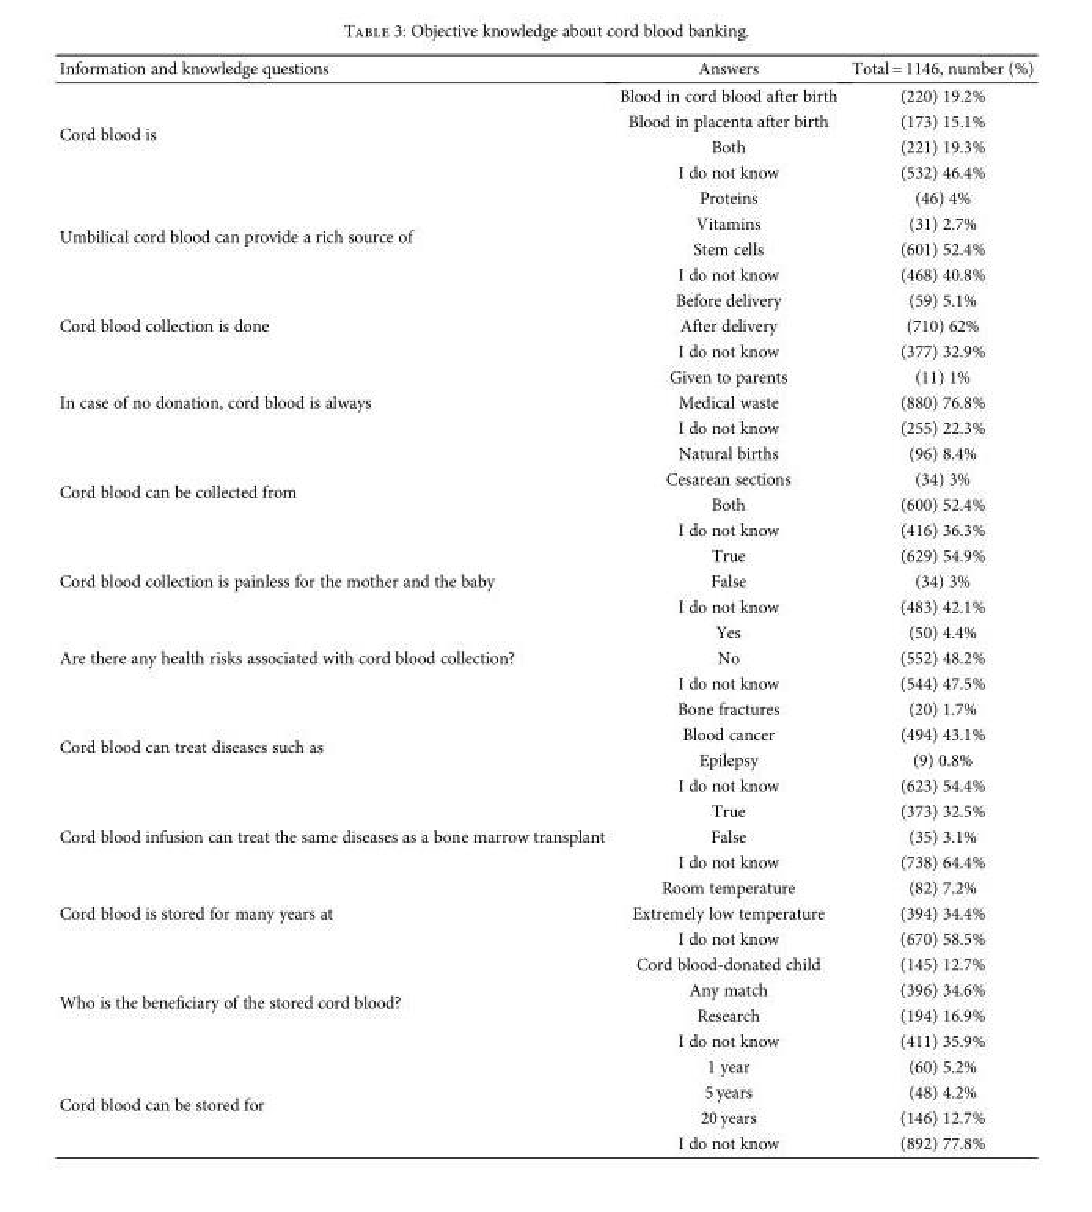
<table><thead><tr><td>Information and knowledge questions</td><td>Answers</td><td>Total = 1146, number (%)</td></tr></thead><tbody><tr><td rowspan="4">Cord blood is</td><td>Blood in cord blood after birth</td><td>(220) 19.2%</td></tr><tr><td>Blood in placenta after birth</td><td>(173) 15.1%</td></tr><tr><td>Both</td><td>(221) 19.3%</td></tr><tr><td>I do not know</td><td>(532) 46.4%</td></tr><tr><td rowspan="4">Umbilical cord blood can provide a rich source of</td><td>Proteins</td><td>(46) 4%</td></tr><tr><td>Vitamins</td><td>(31) 2.7%</td></tr><tr><td>Stem cells</td><td>(601) 52.4%</td></tr><tr><td>I do not know</td><td>(468) 40.8%</td></tr><tr><td rowspan="3">Cord blood collection is done</td><td>Before delivery</td><td>(59) 5.1%</td></tr><tr><td>After delivery</td><td>(710) 62%</td></tr><tr><td>I do not know</td><td>(377) 32.9%</td></tr><tr><td rowspan="3">In case of no donation, cord blood is always</td><td>Given to parents</td><td>(11) 1%</td></tr><tr><td>Medical waste</td><td>(880) 76.8%</td></tr><tr><td>I do not know</td><td>(255) 22.3%</td></tr><tr><td rowspan="4">Cord blood can be collected from</td><td>Natural births</td><td>(96) 8.4%</td></tr><tr><td>Cesarean sections</td><td>(34) 3%</td></tr><tr><td>Both</td><td>(600) 52.4%</td></tr><tr><td>I do not know</td><td>(416) 36.3%</td></tr><tr><td rowspan="3">Cord blood collection is painless for the mother and the baby</td><td>True</td><td>(629) 54.9%</td></tr><tr><td>False</td><td>(34) 3%</td></tr><tr><td>I do not know</td><td>(483) 42.1%</td></tr><tr><td rowspan="3">Are there any health risks associated with cord blood collection?</td><td>Yes</td><td>(50) 4.4%</td></tr><tr><td>No</td><td>(552) 48.2%</td></tr><tr><td>I do not know</td><td>(544) 47.5%</td></tr><tr><td rowspan="4">Cord blood can treat diseases such as</td><td>Bone fractures</td><td>(20) 1.7%</td></tr><tr><td>Blood cancer</td><td>(494) 43.1%</td></tr><tr><td>Epilepsy</td><td>(9) 0.8%</td></tr><tr><td>I do not know</td><td>(623) 54.4%</td></tr><tr><td rowspan="3">Cord blood infusion can treat the same diseases as a bone marrow transplant</td><td>True</td><td>(373) 32.5%</td></tr><tr><td>False</td><td>(35) 3.1%</td></tr><tr><td>I do not know</td><td>(738) 64.4%</td></tr><tr><td rowspan="3">Cord blood is stored for many years at</td><td>Room temperature</td><td>(82) 7.2%</td></tr><tr><td>Extremely low temperature</td><td>(394) 34.4%</td></tr><tr><td>I do not know</td><td>(670) 58.5%</td></tr><tr><td rowspan="4">Who is the beneficiary of the stored cord blood?</td><td>Cord blood-donated child</td><td>(145) 12.7%</td></tr><tr><td>Any match</td><td>(396) 34.6%</td></tr><tr><td>Research</td><td>(194) 16.9%</td></tr><tr><td>I do not know</td><td>(411) 35.9%</td></tr><tr><td rowspan="4">Cord blood can be stored for</td><td>1 year</td><td>(60) 5.2%</td></tr><tr><td>5 years</td><td>(48) 4.2%</td></tr><tr><td>20 years</td><td>(146) 12.7%</td></tr><tr><td>I do not know</td><td>(892) 77.8%</td></tr></tbody></table>